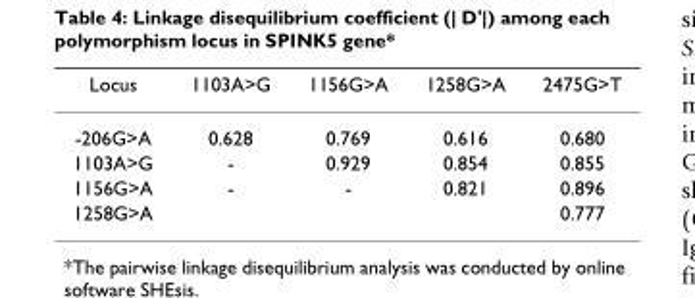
<table><thead><tr><td>Locus</td><td>1103A&gt;G</td><td>1156G&gt;A</td><td>1258G&gt;A</td><td>2475G&gt;T</td></tr></thead><tbody><tr><td>-206G&gt;A</td><td>0.628</td><td>0.769</td><td>0.616</td><td>0.680</td></tr><tr><td>1103A&gt;G</td><td>-</td><td>0.929</td><td>0.854</td><td>0.855</td></tr><tr><td>1156G&gt;A</td><td>-</td><td>-</td><td>0.821</td><td>0.896</td></tr><tr><td>1258G&gt;A</td><td></td><td></td><td></td><td>0.777</td></tr></tbody></table>